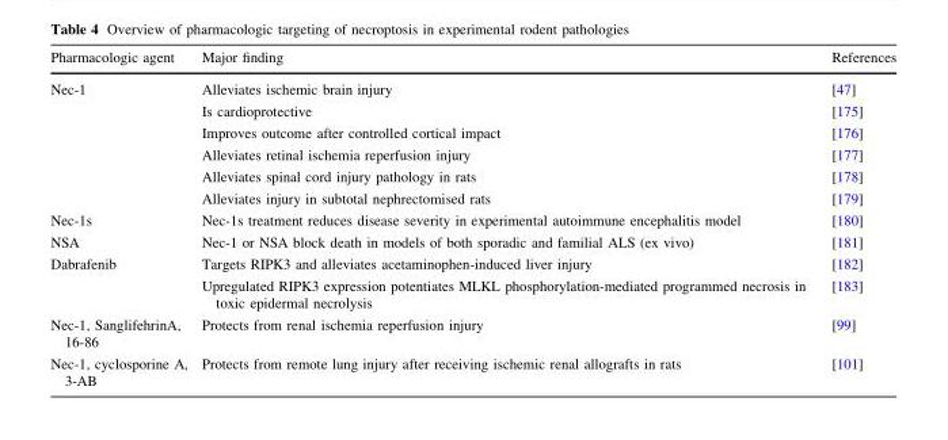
<table><thead><tr><td>Pharmacologic agent</td><td>Major finding</td><td>References</td></tr></thead><tbody><tr><td rowspan="6">Nec-1</td><td>Alleviates ischemic brain injury</td><td>[47]</td></tr><tr><td>Is cardioprotective</td><td>[175]</td></tr><tr><td>Improves outcome after controlled cortical impact</td><td>[176]</td></tr><tr><td>Alleviates retinal ischemia reperfusion injury</td><td>[177]</td></tr><tr><td>Alleviates spinal cord injury pathology in rats</td><td>[178]</td></tr><tr><td>Alleviates injury in subtotal nephrectomised rats</td><td>[179]</td></tr><tr><td>Nec-1s</td><td>Nec-1s treatment reduces disease severity in experimental autoimmune encephalitis model</td><td>[180]</td></tr><tr><td>NSA</td><td>Nec-1 or NSA block death in models of both sporadic and familial ALS (ex vivo)</td><td>[181]</td></tr><tr><td rowspan="2">Dabrafenib</td><td>Targets RIPK3 and alleviates acetaminophen-induced liver injury</td><td>[182]</td></tr><tr><td>Upregulated RIPK3 expression potentiates MLKL phosphorylation-mediated programmed necrosis in toxic epidermal necrolysis</td><td>[183]</td></tr><tr><td>Nec-1, SanglifehrinA, 16-86</td><td>Protects from renal ischemia reperfusion injury</td><td>[99]</td></tr><tr><td>Nec-1, cyclosporine A, 3-AB</td><td>Protects from remote lung injury after receiving ischemic renal allografts in rats</td><td>[101]</td></tr></tbody></table>